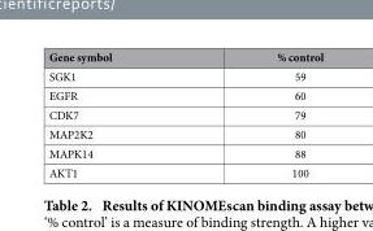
<table><thead><tr><td>Gene symbol</td><td>% control</td></tr></thead><tbody><tr><td>SGK1</td><td>59</td></tr><tr><td>EGFR</td><td>60</td></tr><tr><td>CDK7</td><td>79</td></tr><tr><td>MAP2K2</td><td>80</td></tr><tr><td>MAPK14</td><td>88</td></tr><tr><td>AKT1</td><td>100</td></tr></tbody></table>